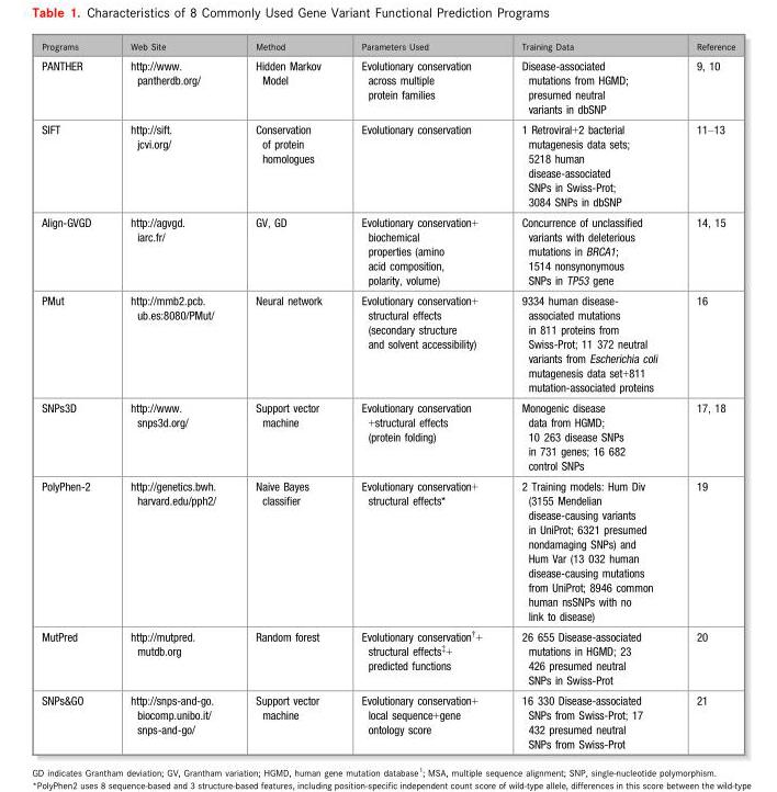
<table><thead><tr><td>Programs</td><td>Web Site</td><td>Method</td><td>Parameters Used</td><td>Training Data</td><td>Reference</td></tr></thead><tbody><tr><td>PANTHER</td><td>http://www. pantherdb.org/</td><td>Hidden Markov Model</td><td>Evolutionary conservation across multiple protein families</td><td>Disease-associated mutations from HGMD; presumed neutral variants in dbSNP</td><td><sup>9, 10</sup></td></tr><tr><td>SIFT</td><td>http://sift. jcvi.org/</td><td>Conservation of protein homologues</td><td>Evolutionary conservation</td><td>1 Retroviral+2 bacterial mutagenesis data sets; 5218 human disease-associated SNPs in Swiss-Prot; 3084 SNPs in dbSNP</td><td><sup>11–13</sup></td></tr><tr><td>Align-GVGD</td><td>http://agvgd. iarc.fr/</td><td>GV, GD</td><td>Evolutionary conservation+ biochemical properties (amino acid composition, polarity, volume)</td><td>Concurrence of unclassified variants with deleterious mutations in BRCA1; 1514 nonsynonymous SNPs in TP53 gene</td><td><sup>14, 15</sup></td></tr><tr><td>PMut</td><td>http://mmb2.pcb. ub.es:8080/PMut/</td><td>Neural network</td><td>Evolutionary conservation+ structural effects (secondary structure and solvent accessibility)</td><td>9334 human disease- associated mutations in 811 proteins from Swiss-Prot; 11 372 neutral variants from Escherichia coli mutagenesis data set+811 mutation-associated proteins</td><td><sup>16</sup></td></tr><tr><td>SNPs3D</td><td>http://www. snps3d.org/</td><td>Support vector machine</td><td>Evolutionary conservation +structural effects (protein folding)</td><td>Monogenic disease data from HGMD; 10 263 disease SNPs in 731 genes; 16 682 control SNPs</td><td><sup>17, 18</sup></td></tr><tr><td>PolyPhen-2</td><td>http://genetics.bwh. harvard.edu/pph2/</td><td>Naive Bayes classifier</td><td>Evolutionary conservation+ structural effects*</td><td>2 Training models: Hum Div (3155 Mendelian disease-causing variants in UniProt; 6321 presumed nondamaging SNPs) and Hum Var (13 032 human disease-causing mutations from UniProt; 8946 common human nsSNPs with no link to disease)</td><td><sup>19</sup></td></tr><tr><td>MutPred</td><td>http://mutpred. mutdb.org</td><td>Random forest</td><td>Evolutionary conservation†+ structural effects‡+ predicted functions</td><td>26 655 Disease-associated mutations in HGMD; 23 426 presumed neutral SNPs in Swiss-Prot</td><td><sup>20</sup></td></tr><tr><td>SNPs&amp;GO</td><td>http://snps-and-go. biocomp.unibo.it/ snps-and-go/</td><td>Support vector machine</td><td>Evolutionary conservation+ local sequence+gene ontology score</td><td>16 330 Disease-associated SNPs from Swiss-Prot; 17 432 presumed neutral SNPs from Swiss-Prot</td><td><sup>21</sup></td></tr></tbody></table>